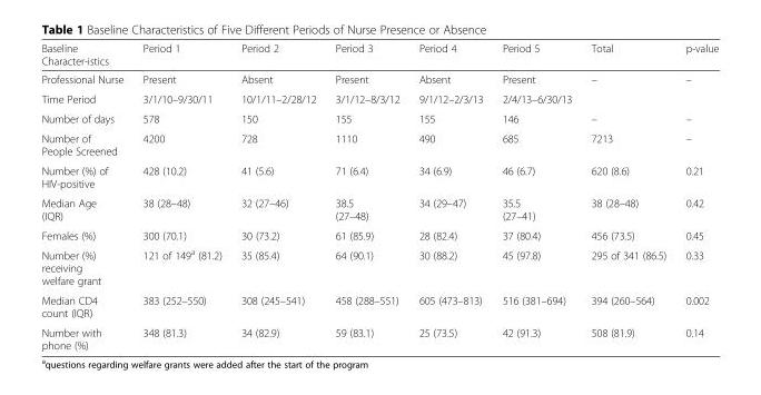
<table><thead><tr><td>Baseline Character-istics</td><td>Period 1</td><td>Period 2</td><td>Period 3</td><td>Period 4</td><td>Period 5</td><td>Total</td><td>p-value</td></tr></thead><tbody><tr><td>Professional Nurse</td><td>Present</td><td>Absent</td><td>Present</td><td>Absent</td><td>Present</td><td>–</td><td>–</td></tr><tr><td>Time Period</td><td>3/1/10–9/30/11</td><td>10/1/11–2/28/12</td><td>3/1/12–8/3/12</td><td>9/1/12–2/3/13</td><td>2/4/13–6/30/13</td><td></td><td></td></tr><tr><td>Number of days</td><td>578</td><td>150</td><td>155</td><td>155</td><td>146</td><td>–</td><td>–</td></tr><tr><td>Number of People Screened</td><td>4200</td><td>728</td><td>1110</td><td>490</td><td>685</td><td>7213</td><td>–</td></tr><tr><td>Number (%) of HIV-positive</td><td>428 (10.2)</td><td>41 (5.6)</td><td>71 (6.4)</td><td>34 (6.9)</td><td>46 (6.7)</td><td>620 (8.6)</td><td>0.21</td></tr><tr><td>Median Age (IQR)</td><td>38 (28–48)</td><td>32 (27–46)</td><td>38.5 (27–48)</td><td>34 (29–47)</td><td>35.5 (27–41)</td><td>38 (28–48)</td><td>0.42</td></tr><tr><td>Females (%)</td><td>300 (70.1)</td><td>30 (73.2)</td><td>61 (85.9)</td><td>28 (82.4)</td><td>37 (80.4)</td><td>456 (73.5)</td><td>0.45</td></tr><tr><td>Number (%) receiving welfare grant</td><td>121 of 149<sup>a</sup> (81.2)</td><td>35 (85.4)</td><td>64 (90.1)</td><td>30 (88.2)</td><td>45 (97.8)</td><td>295 of 341 (86.5)</td><td>0.33</td></tr><tr><td>Median CD4 count (IQR)</td><td>383 (252–550)</td><td>308 (245–541)</td><td>458 (288–551)</td><td>605 (473–813)</td><td>516 (381–694)</td><td>394 (260–564)</td><td>0.002</td></tr><tr><td>Number with phone (%)</td><td>348 (81.3)</td><td>34 (82.9)</td><td>59 (83.1)</td><td>25 (73.5)</td><td>42 (91.3)</td><td>508 (81.9)</td><td>0.14</td></tr></tbody></table>